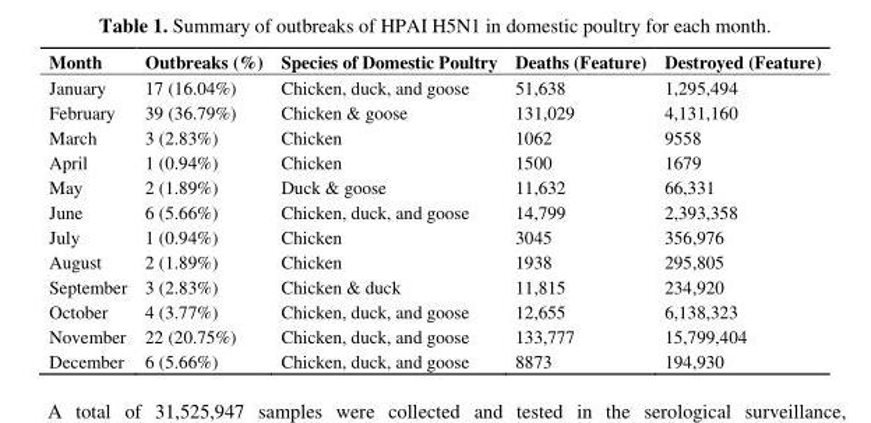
<table><thead><tr><td>Month</td><td>Outbreaks (%)</td><td>Species of Domestic Poultry</td><td>Deaths (Feature)</td><td>Destroyed (Feature)</td></tr></thead><tbody><tr><td>January</td><td>17 (16.04%)</td><td>Chicken, duck, and goose</td><td>51,638</td><td>1,295,494</td></tr><tr><td>February</td><td>39 (36.79%)</td><td>Chicken &amp; goose</td><td>131,029</td><td>4,131,160</td></tr><tr><td>March</td><td>3 (2.83%)</td><td>Chicken</td><td>1062</td><td>9558</td></tr><tr><td>April</td><td>1 (0.94%)</td><td>Chicken</td><td>1500</td><td>1679</td></tr><tr><td>May</td><td>2 (1.89%)</td><td>Duck &amp; goose</td><td>11,632</td><td>66,331</td></tr><tr><td>June</td><td>6 (5.66%)</td><td>Chicken, duck, and goose</td><td>14,799</td><td>2,393,358</td></tr><tr><td>July</td><td>1 (0.94%)</td><td>Chicken</td><td>3045</td><td>356,976</td></tr><tr><td>August</td><td>2 (1.89%)</td><td>Chicken</td><td>1938</td><td>295,805</td></tr><tr><td>September</td><td>3 (2.83%)</td><td>Chicken &amp; duck</td><td>11,815</td><td>234,920</td></tr><tr><td>October</td><td>4 (3.77%)</td><td>Chicken, duck, and goose</td><td>12,655</td><td>6,138,323</td></tr><tr><td>November</td><td>22 (20.75%)</td><td>Chicken, duck, and goose</td><td>133,777</td><td>15,799,404</td></tr><tr><td>December</td><td>6 (5.66%)</td><td>Chicken, duck, and goose</td><td>8873</td><td>194,930</td></tr></tbody></table>